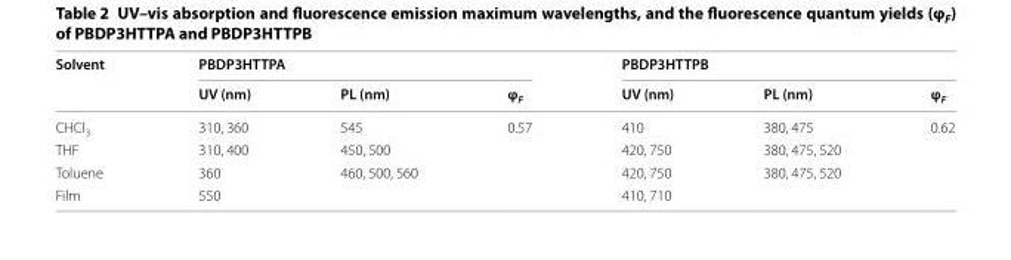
<table><thead><tr><td rowspan="2">Solvent</td><td colspan="3">PBDP3HTTPA</td><td colspan="3">PBDP3HTTPB</td></tr><tr><td>UV (nm)</td><td>PL (nm)</td><td>φ<sub>F</sub></td><td>UV (nm)</td><td>PL (nm)</td><td>φ<sub>F</sub></td></tr></thead><tbody><tr><td>CHCl<sub>3</sub></td><td>310, 360</td><td>545</td><td>0.57</td><td>410</td><td>380, 475</td><td>0.62</td></tr><tr><td>THF</td><td>310, 400</td><td>450, 500</td><td></td><td>420, 750</td><td>380, 475, 520</td><td></td></tr><tr><td>Toluene</td><td>360</td><td>460, 500, 560</td><td></td><td>420, 750</td><td>380, 475, 520</td><td></td></tr><tr><td>Film</td><td>550</td><td></td><td></td><td>410, 710</td><td></td><td></td></tr></tbody></table>